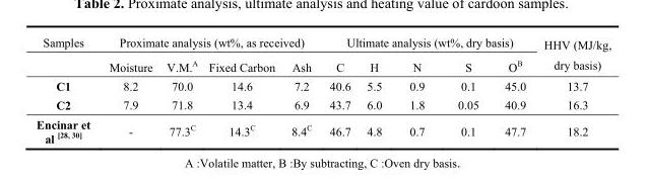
<table><thead><tr><td rowspan="2">Samples</td><td colspan="4">Proximate analysis (wt%, as received)</td><td colspan="5">Ultimate analysis (wt%, dry basis)</td><td rowspan="2">HHV (MJ/kg, dry basis)</td></tr><tr><td>Moisture</td><td>V.M.<sup>A</sup></td><td>Fixed Carbon</td><td>Ash</td><td>C</td><td>H</td><td>N</td><td>S</td><td>O<sup>B</sup></td></tr></thead><tbody><tr><td>C1</td><td>8.2</td><td>70.0</td><td>14.6</td><td>7.2</td><td>40.6</td><td>5.5</td><td>0.9</td><td>0.1</td><td>45.0</td><td>13.7</td></tr><tr><td>C2</td><td>7.9</td><td>71.8</td><td>13.4</td><td>6.9</td><td>43.7</td><td>6.0</td><td>1.8</td><td>0.05</td><td>40.9</td><td>16.3</td></tr><tr><td>Encinar et al [28, 30]</td><td>-</td><td>77.3<sup>C</sup></td><td>14.3<sup>C</sup></td><td>8.4<sup>C</sup></td><td>46.7</td><td>4.8</td><td>0.7</td><td>0.1</td><td>47.7</td><td>18.2</td></tr></tbody></table>